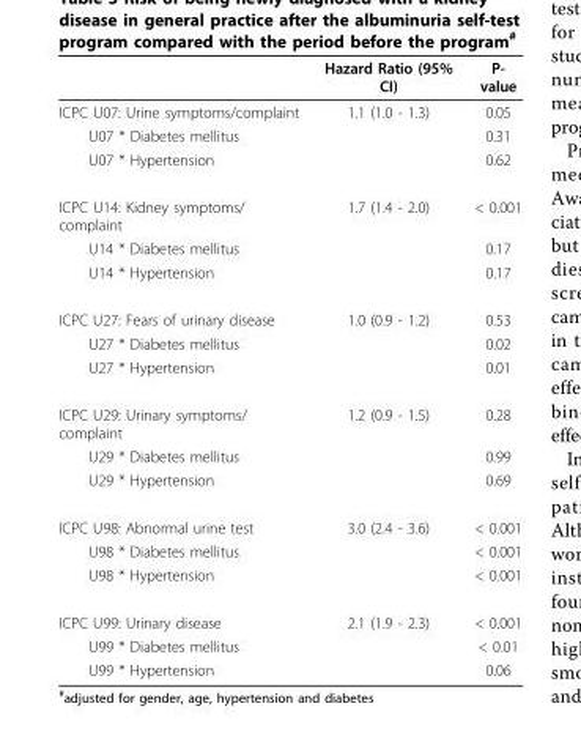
<table><thead><tr><td></td><td>Hazard Ratio (95% CI)</td><td>P- value</td></tr></thead><tbody><tr><td>ICPC U07: Urine symptoms/complaint</td><td>1.1 (1.0 - 1.3)</td><td>0.05</td></tr><tr><td>U07 * Diabetes mellitus</td><td></td><td>0.31</td></tr><tr><td>U07 * Hypertension</td><td></td><td>0.62</td></tr><tr><td>ICPC U14: Kidney symptoms/ complaint</td><td>1.7 (1.4 - 2.0)</td><td>&lt; 0.001</td></tr><tr><td>U14 * Diabetes mellitus</td><td></td><td>0.17</td></tr><tr><td>U14 * Hypertension</td><td></td><td>0.17</td></tr><tr><td>ICPC U27: Fears of urinary disease</td><td>1.0 (0.9 - 1.2)</td><td>0.53</td></tr><tr><td>U27 * Diabetes mellitus</td><td></td><td>0.02</td></tr><tr><td>U27 * Hypertension</td><td></td><td>0.01</td></tr><tr><td>ICPC U29: Urinary symptoms/ complaint</td><td>1.2 (0.9 - 1.5)</td><td>0.28</td></tr><tr><td>U29 * Diabetes mellitus</td><td></td><td>0.99</td></tr><tr><td>U29 * Hypertension</td><td></td><td>0.69</td></tr><tr><td>ICPC U98: Abnormal urine test</td><td>3.0 (2.4 - 3.6)</td><td>&lt; 0.001</td></tr><tr><td>U98 * Diabetes mellitus</td><td></td><td>&lt; 0.001</td></tr><tr><td>U98 * Hypertension</td><td></td><td>&lt; 0.001</td></tr><tr><td>ICPC U99: Urinary disease</td><td>2.1 (1.9 - 2.3)</td><td>&lt; 0.001</td></tr><tr><td>U99 * Diabetes mellitus</td><td></td><td>&lt; 0.01</td></tr><tr><td>U99 * Hypertension</td><td></td><td>0.06</td></tr></tbody></table>